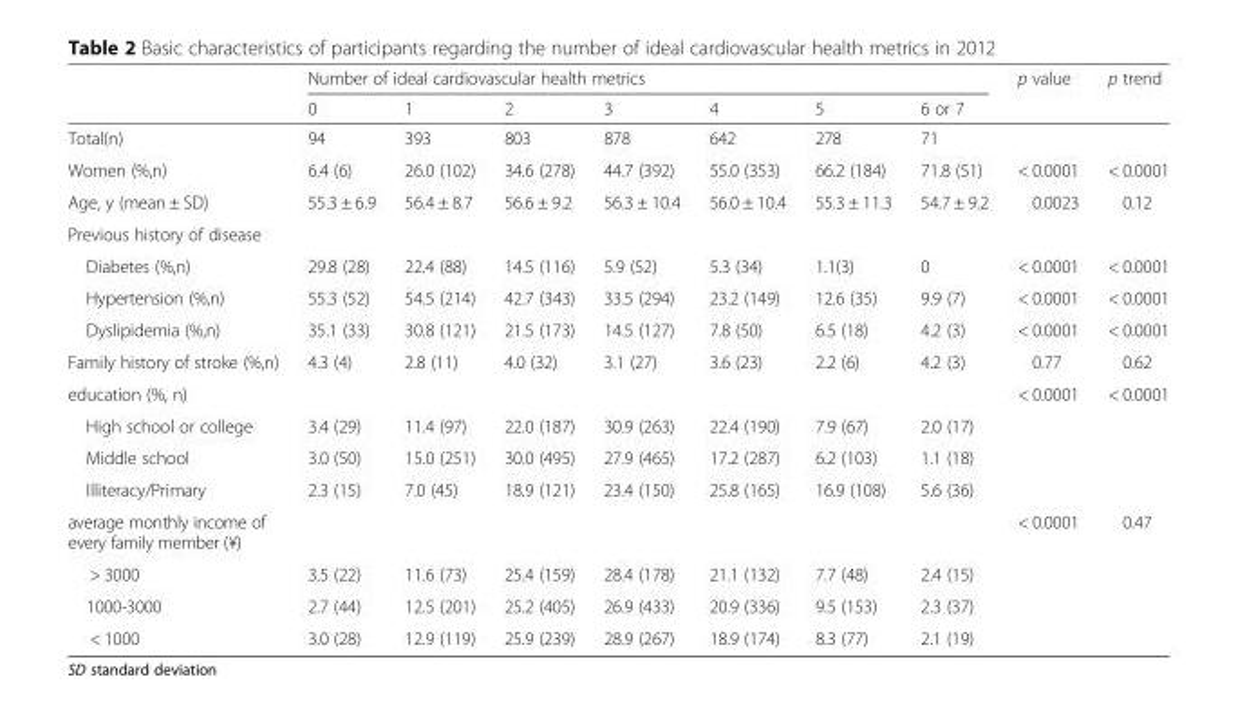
<table><thead><tr><td rowspan="2"></td><td colspan="7">Number of ideal cardiovascular health metrics</td><td rowspan="2">p value</td><td rowspan="2">p trend</td></tr><tr><td>0</td><td>1</td><td>2</td><td>3</td><td>4</td><td>5</td><td>6 or 7</td></tr></thead><tbody><tr><td>Total(n)</td><td>94</td><td>393</td><td>803</td><td>878</td><td>642</td><td>278</td><td>71</td><td></td><td></td></tr><tr><td>Women (%,n)</td><td>6.4 (6)</td><td>26.0 (102)</td><td>34.6 (278)</td><td>44.7 (392)</td><td>55.0 (353)</td><td>66.2 (184)</td><td>71.8 (51)</td><td>&lt; 0.0001</td><td>&lt; 0.0001</td></tr><tr><td>Age, y (mean ± SD)</td><td>55.3 ± 6.9</td><td>56.4 ± 8.7</td><td>56.6 ± 9.2</td><td>56.3 ± 10.4</td><td>56.0 ± 10.4</td><td>55.3 ± 11.3</td><td>54.7 ± 9.2</td><td>0.0023</td><td>0.12</td></tr><tr><td colspan="10">Previous history of disease</td></tr><tr><td>Diabetes (%,n)</td><td>29.8 (28)</td><td>22.4 (88)</td><td>14.5 (116)</td><td>5.9 (52)</td><td>5.3 (34)</td><td>1.1(3)</td><td>0</td><td>&lt; 0.0001</td><td>&lt; 0.0001</td></tr><tr><td>Hypertension (%,n)</td><td>55.3 (52)</td><td>54.5 (214)</td><td>42.7 (343)</td><td>33.5 (294)</td><td>23.2 (149)</td><td>12.6 (35)</td><td>9.9 (7)</td><td>&lt; 0.0001</td><td>&lt; 0.0001</td></tr><tr><td>Dyslipidemia (%,n)</td><td>35.1 (33)</td><td>30.8 (121)</td><td>21.5 (173)</td><td>14.5 (127)</td><td>7.8 (50)</td><td>6.5 (18)</td><td>4.2 (3)</td><td>&lt; 0.0001</td><td>&lt; 0.0001</td></tr><tr><td>Family history of stroke (%,n)</td><td>4.3 (4)</td><td>2.8 (11)</td><td>4.0 (32)</td><td>3.1 (27)</td><td>3.6 (23)</td><td>2.2 (6)</td><td>4.2 (3)</td><td>0.77</td><td>0.62</td></tr><tr><td>education (%, n)</td><td></td><td></td><td></td><td></td><td></td><td></td><td></td><td>&lt; 0.0001</td><td>&lt; 0.0001</td></tr><tr><td>High school or college</td><td>3.4 (29)</td><td>11.4 (97)</td><td>22.0 (187)</td><td>30.9 (263)</td><td>22.4 (190)</td><td>7.9 (67)</td><td>2.0 (17)</td><td></td><td></td></tr><tr><td>Middle school</td><td>3.0 (50)</td><td>15.0 (251)</td><td>30.0 (495)</td><td>27.9 (465)</td><td>17.2 (287)</td><td>6.2 (103)</td><td>1.1 (18)</td><td></td><td></td></tr><tr><td>Illiteracy/Primary</td><td>2.3 (15)</td><td>7.0 (45)</td><td>18.9 (121)</td><td>23.4 (150)</td><td>25.8 (165)</td><td>16.9 (108)</td><td>5.6 (36)</td><td></td><td></td></tr><tr><td>average monthly income of every family member (¥)</td><td></td><td></td><td></td><td></td><td></td><td></td><td></td><td>&lt; 0.0001</td><td>0.47</td></tr><tr><td>&gt; 3000</td><td>3.5 (22)</td><td>11.6 (73)</td><td>25.4 (159)</td><td>28.4 (178)</td><td>21.1 (132)</td><td>7.7 (48)</td><td>2.4 (15)</td><td></td><td></td></tr><tr><td>1000-3000</td><td>2.7 (44)</td><td>12.5 (201)</td><td>25.2 (405)</td><td>26.9 (433)</td><td>20.9 (336)</td><td>9.5 (153)</td><td>2.3 (37)</td><td></td><td></td></tr><tr><td>&lt; 1000</td><td>3.0 (28)</td><td>12.9 (119)</td><td>25.9 (239)</td><td>28.9 (267)</td><td>18.9 (174)</td><td>8.3 (77)</td><td>2.1 (19)</td><td></td><td></td></tr></tbody></table>